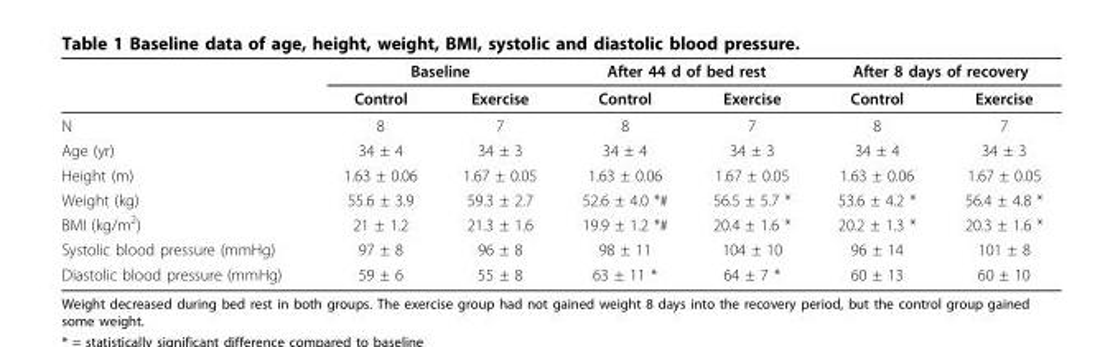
<table><thead><tr><td rowspan="2"></td><td colspan="2">Baseline</td><td colspan="2">After 44 d of bed rest</td><td colspan="2">After 8 days of recovery</td></tr><tr><td>Control</td><td>Exercise</td><td>Control</td><td>Exercise</td><td>Control</td><td>Exercise</td></tr></thead><tbody><tr><td>N</td><td>8</td><td>7</td><td>8</td><td>7</td><td>8</td><td>7</td></tr><tr><td>Age (yr)</td><td>34 ± 4</td><td>34 ± 3</td><td>34 ± 4</td><td>34 ± 3</td><td>34 ± 4</td><td>34 ± 3</td></tr><tr><td>Height (m)</td><td>1.63 ± 0.06</td><td>1.67 ± 0.05</td><td>1.63 ± 0.06</td><td>1.67 ± 0.05</td><td>1.63 ± 0.06</td><td>1.67 ± 0.05</td></tr><tr><td>Weight (kg)</td><td>55.6 ± 3.9</td><td>59.3 ± 2.7</td><td>52.6 ± 4.0 *#</td><td>56.5 ± 5.7 *</td><td>53.6 ± 4.2 *</td><td>56.4 ± 4.8 *</td></tr><tr><td>BMI (kg/m<sup>2</sup>)</td><td>21 ± 1.2</td><td>21.3 ± 1.6</td><td>19.9 ± 1.2 *#</td><td>20.4 ± 1.6 *</td><td>20.2 ± 1.3 *</td><td>20.3 ± 1.6 *</td></tr><tr><td>Systolic blood pressure (mmHg)</td><td>97 ± 8</td><td>96 ± 8</td><td>98 ± 11</td><td>104 ± 10</td><td>96 ± 14</td><td>101 ± 8</td></tr><tr><td>Diastolic blood pressure (mmHg)</td><td>59 ± 6</td><td>55 ± 8</td><td>63 ± 11 *</td><td>64 ± 7 *</td><td>60 ± 13</td><td>60 ± 10</td></tr></tbody></table>